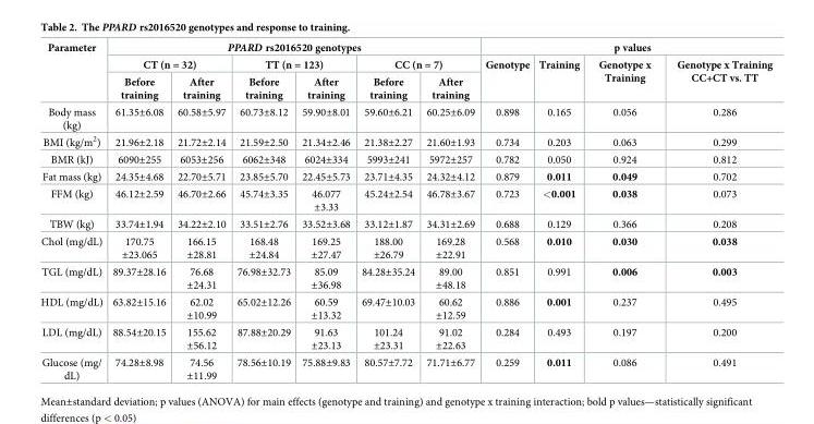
<table><thead><tr><td rowspan="3">Parameter</td><td colspan="6">PPARD rs2016520 genotypes</td><td colspan="4">p values</td></tr><tr><td colspan="2">CT (n = 32)</td><td colspan="2">TT (n = 123)</td><td colspan="2">CC (n = 7)</td><td rowspan="2">Genotype</td><td rowspan="2">Training</td><td rowspan="2">Genotype x Training</td><td rowspan="2">Genotype x Training CC+CT vs. TT</td></tr><tr><td>Before training</td><td>After training</td><td>Before training</td><td>After training</td><td>Before training</td><td>After training</td></tr></thead><tbody><tr><td>Body mass (kg)</td><td>61.35±6.08</td><td>60.58±5.97</td><td>60.73±8.12</td><td>59.90±8.01</td><td>59.60±6.21</td><td>60.25±6.09</td><td>0.898</td><td>0.165</td><td>0.056</td><td>0.286</td></tr><tr><td>BMI (kg/m<sup>2</sup>)</td><td>21.96±2.18</td><td>21.72±2.14</td><td>21.59±2.50</td><td>21.34±2.46</td><td>21.38±2.27</td><td>21.60±1.93</td><td>0.734</td><td>0.203</td><td>0.063</td><td>0.299</td></tr><tr><td>BMR (kJ)</td><td>6090±255</td><td>6053±256</td><td>6062±348</td><td>6024±334</td><td>5993±241</td><td>5972±257</td><td>0.782</td><td>0.050</td><td>0.924</td><td>0.812</td></tr><tr><td>Fat mass (kg)</td><td>24.35±4.68</td><td>22.70±5.71</td><td>23.85±5.70</td><td>22.45±5.73</td><td>23.71±4.35</td><td>24.32±4.12</td><td>0.879</td><td>0.011</td><td>0.049</td><td>0.702</td></tr><tr><td>FFM (kg)</td><td>46.12±2.59</td><td>46.70±2.66</td><td>45.74±3.35</td><td>46.077 ±3.33</td><td>45.24±2.54</td><td>46.78±3.67</td><td>0.723</td><td>&lt;0.001</td><td>0.038</td><td>0.073</td></tr><tr><td>TBW (kg)</td><td>33.74±1.94</td><td>34.22±2.10</td><td>33.51±2.76</td><td>33.52±3.68</td><td>33.12±1.87</td><td>34.31±2.69</td><td>0.688</td><td>0.129</td><td>0.366</td><td>0.208</td></tr><tr><td>Chol (mg/dL)</td><td>170.75 ±23.065</td><td>166.15 ±28.81</td><td>168.48 ±24.84</td><td>169.25 ±27.47</td><td>188.00 ±26.79</td><td>169.28 ±22.91</td><td>0.568</td><td>0.010</td><td>0.030</td><td>0.038</td></tr><tr><td>TGL (mg/dL)</td><td>89.37±28.16</td><td>76.68 ±24.31</td><td>76.98±32.73</td><td>85.09 ±36.98</td><td>84.28±35.24</td><td>89.00 ±48.18</td><td>0.851</td><td>0.991</td><td>0.006</td><td>0.003</td></tr><tr><td>HDL (mg/dL)</td><td>63.82±15.16</td><td>62.02 ±10.99</td><td>65.02±12.26</td><td>60.59 ±13.32</td><td>69.47±10.03</td><td>60.62 ±12.59</td><td>0.886</td><td>0.001</td><td>0.237</td><td>0.495</td></tr><tr><td>LDL (mg/dL)</td><td>88.54±20.15</td><td>155.62 ±56.12</td><td>87.88±20.29</td><td>91.63 ±23.13</td><td>101.24 ±23.31</td><td>91.02 ±22.63</td><td>0.284</td><td>0.493</td><td>0.197</td><td>0.200</td></tr><tr><td>Glucose (mg/ dL)</td><td>74.28±8.98</td><td>74.56 ±11.99</td><td>78.56±10.19</td><td>75.88±9.83</td><td>80.57±7.72</td><td>71.71±6.77</td><td>0.259</td><td>0.011</td><td>0.086</td><td>0.491</td></tr></tbody></table>